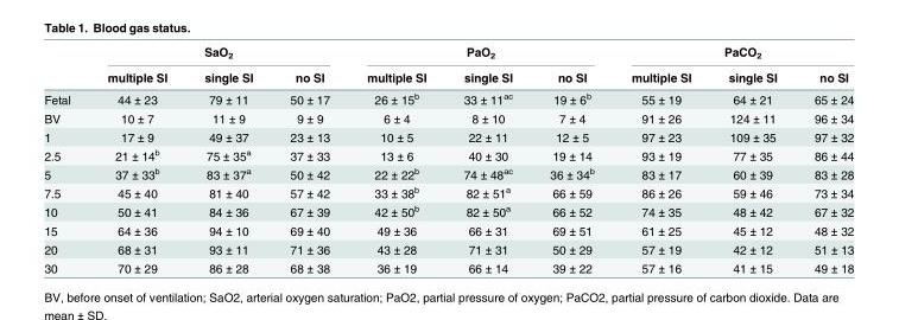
<table><thead><tr><td rowspan="2"></td><td colspan="3">SaO<sub>2</sub></td><td colspan="3">PaO<sub>2</sub></td><td colspan="3">PaCO<sub>2</sub></td></tr><tr><td>multiple SI</td><td>single SI</td><td>no SI</td><td>multiple SI</td><td>single SI</td><td>no SI</td><td>multiple SI</td><td>single SI</td><td>no SI</td></tr></thead><tbody><tr><td>Fetal</td><td>44 ± 23</td><td>79 ± 11</td><td>50 ± 17</td><td>26 ± 15<sup>b</sup></td><td>33 ± 11<sup>ac</sup></td><td>19 ± 6<sup>b</sup></td><td>55 ± 19</td><td>64 ± 21</td><td>65 ± 24</td></tr><tr><td>BV</td><td>10 ± 7</td><td>11 ± 9</td><td>9 ± 9</td><td>6 ± 4</td><td>8 ± 10</td><td>7 ± 4</td><td>91 ± 26</td><td>124 ± 11</td><td>96 ± 34</td></tr><tr><td>1</td><td>17 ± 9</td><td>49 ± 37</td><td>23 ± 13</td><td>10 ± 5</td><td>22 ± 11</td><td>12 ± 5</td><td>97 ± 23</td><td>109 ± 35</td><td>97 ± 32</td></tr><tr><td>2.5</td><td>21 ± 14<sup>b</sup></td><td>75 ± 35<sup>a</sup></td><td>37 ± 33</td><td>13 ± 6</td><td>40 ± 30</td><td>19 ± 14</td><td>93 ± 19</td><td>77 ± 35</td><td>86 ± 44</td></tr><tr><td>5</td><td>37 ± 33<sup>b</sup></td><td>83 ± 37<sup>a</sup></td><td>50 ± 42</td><td>22 ± 22<sup>b</sup></td><td>74 ± 48<sup>ac</sup></td><td>36 ± 34<sup>b</sup></td><td>83 ± 17</td><td>60 ± 39</td><td>83 ± 28</td></tr><tr><td>7.5</td><td>45 ± 40</td><td>81 ± 40</td><td>57 ± 42</td><td>33 ± 38<sup>b</sup></td><td>82 ± 51<sup>a</sup></td><td>66 ± 59</td><td>86 ± 26</td><td>59 ± 46</td><td>73 ± 34</td></tr><tr><td>10</td><td>50 ± 41</td><td>84 ± 36</td><td>67 ± 39</td><td>42 ± 50<sup>b</sup></td><td>82 ± 50<sup>a</sup></td><td>66 ± 52</td><td>74 ± 35</td><td>48 ± 42</td><td>67 ± 32</td></tr><tr><td>15</td><td>64 ± 36</td><td>94 ± 10</td><td>69 ± 40</td><td>49 ± 36</td><td>66 ± 31</td><td>69 ± 51</td><td>61 ± 25</td><td>45 ± 12</td><td>48 ± 32</td></tr><tr><td>20</td><td>68 ± 31</td><td>93 ± 11</td><td>71 ± 36</td><td>43 ± 28</td><td>71 ± 31</td><td>50 ± 29</td><td>57 ± 19</td><td>42 ± 12</td><td>51 ± 13</td></tr><tr><td>30</td><td>70 ± 29</td><td>86 ± 28</td><td>68 ± 38</td><td>36 ± 19</td><td>66 ± 14</td><td>39 ± 22</td><td>57 ± 16</td><td>41 ± 15</td><td>49 ± 18</td></tr></tbody></table>